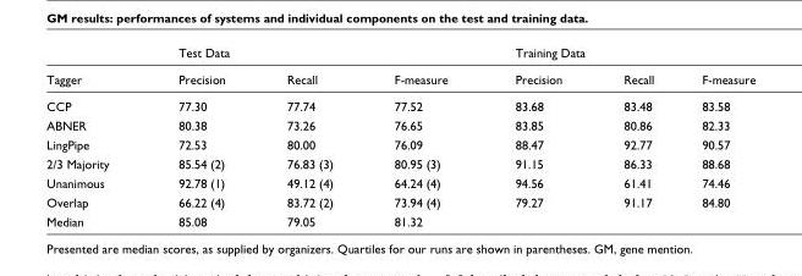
<table><thead><tr><td rowspan="2">Tagger</td><td colspan="3">Test Data</td><td colspan="3">Training Data</td></tr><tr><td>Precision</td><td>Recall</td><td>F-measure</td><td>Precision</td><td>Recall</td><td>F-measure</td></tr></thead><tbody><tr><td>CCP</td><td>77.30</td><td>77.74</td><td>77.52</td><td>83.68</td><td>83.48</td><td>83.58</td></tr><tr><td>ABNER</td><td>80.38</td><td>73.26</td><td>76.65</td><td>83.85</td><td>80.86</td><td>82.33</td></tr><tr><td>LingPipe</td><td>72.53</td><td>80.00</td><td>76.09</td><td>88.47</td><td>92.77</td><td>90.57</td></tr><tr><td>2/3 Majority</td><td>85.54 (2)</td><td>76.83 (3)</td><td>80.95 (3)</td><td>91.15</td><td>86.33</td><td>88.68</td></tr><tr><td>Unanimous</td><td>92.78 (1)</td><td>49.12 (4)</td><td>64.24 (4)</td><td>94.56</td><td>61.41</td><td>74.46</td></tr><tr><td>Overlap</td><td>66.22 (4)</td><td>83.72 (2)</td><td>73.94 (4)</td><td>79.27</td><td>91.17</td><td>84.80</td></tr><tr><td>Median</td><td>85.08</td><td>79.05</td><td>81.32</td><td></td><td></td><td></td></tr></tbody></table>